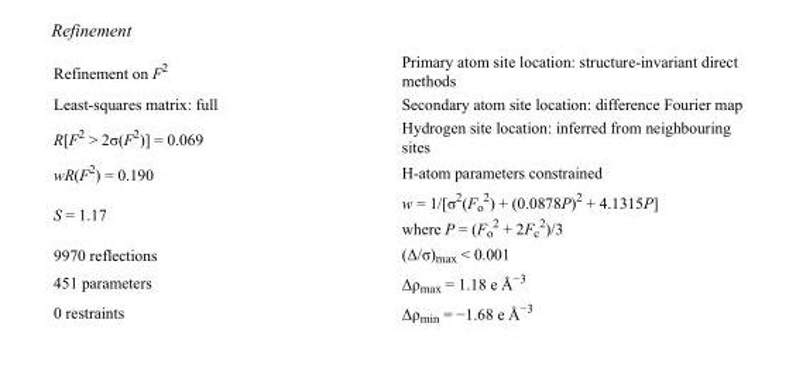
<table><tbody><tr><td>Refinement on F<sup>2</sup></td><td>Primary atom site location: structure-invariant direct methods</td></tr><tr><td>Least-squares matrix: full</td><td>Secondary atom site location: difference Fourier map</td></tr><tr><td>R[F<sup>2</sup> &gt; 2σ(F<sup>2</sup>)] = 0.069</td><td>Hydrogen site location: inferred from neighbouring sites</td></tr><tr><td>wR(F<sup>2</sup>) = 0.190</td><td>H-atom parameters constrained</td></tr><tr><td>S = 1.17</td><td>w = 1/[σ<sup>2</sup>(F<sub>o</sub> <sup>2</sup>) + (0.0878P)<sup>2</sup> + 4.1315P] where P = (F<sub>o</sub> <sup>2</sup> + 2F<sub>c</sub> <sup>2</sup>)/3</td></tr><tr><td>9970 reflections</td><td>(Δ/σ)<sub>max</sub> &lt; 0.001</td></tr><tr><td>451 parameters</td><td>Δρ<sub>max</sub> = 1.18 e Å<sup>−3</sup></td></tr><tr><td>0 restraints</td><td>Δρ<sub>min</sub> = −1.68 e Å<sup>−3</sup></td></tr></tbody></table>